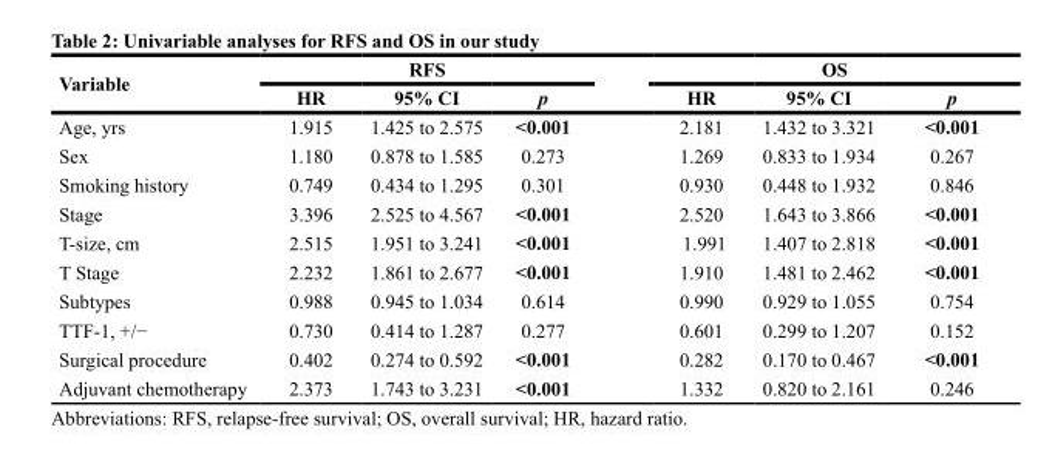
<table><thead><tr><td rowspan="2">Variable</td><td colspan="3">RFS</td><td colspan="3">OS</td></tr><tr><td>HR</td><td>95% CI</td><td>p</td><td>HR</td><td>95% CI</td><td>p</td></tr></thead><tbody><tr><td>Age, yrs</td><td>1.915</td><td>1.425 to 2.575</td><td>&lt;0.001</td><td>2.181</td><td>1.432 to 3.321</td><td>&lt;0.001</td></tr><tr><td>Sex</td><td>1.180</td><td>0.878 to 1.585</td><td>0.273</td><td>1.269</td><td>0.833 to 1.934</td><td>0.267</td></tr><tr><td>Smoking history</td><td>0.749</td><td>0.434 to 1.295</td><td>0.301</td><td>0.930</td><td>0.448 to 1.932</td><td>0.846</td></tr><tr><td>Stage</td><td>3.396</td><td>2.525 to 4.567</td><td>&lt;0.001</td><td>2.520</td><td>1.643 to 3.866</td><td>&lt;0.001</td></tr><tr><td>T-size, cm</td><td>2.515</td><td>1.951 to 3.241</td><td>&lt;0.001</td><td>1.991</td><td>1.407 to 2.818</td><td>&lt;0.001</td></tr><tr><td>T Stage</td><td>2.232</td><td>1.861 to 2.677</td><td>&lt;0.001</td><td>1.910</td><td>1.481 to 2.462</td><td>&lt;0.001</td></tr><tr><td>Subtypes</td><td>0.988</td><td>0.945 to 1.034</td><td>0.614</td><td>0.990</td><td>0.929 to 1.055</td><td>0.754</td></tr><tr><td>TTF-1, +/−</td><td>0.730</td><td>0.414 to 1.287</td><td>0.277</td><td>0.601</td><td>0.299 to 1.207</td><td>0.152</td></tr><tr><td>Surgical procedure</td><td>0.402</td><td>0.274 to 0.592</td><td>&lt;0.001</td><td>0.282</td><td>0.170 to 0.467</td><td>&lt;0.001</td></tr><tr><td>Adjuvant chemotherapy</td><td>2.373</td><td>1.743 to 3.231</td><td>&lt;0.001</td><td>1.332</td><td>0.820 to 2.161</td><td>0.246</td></tr></tbody></table>